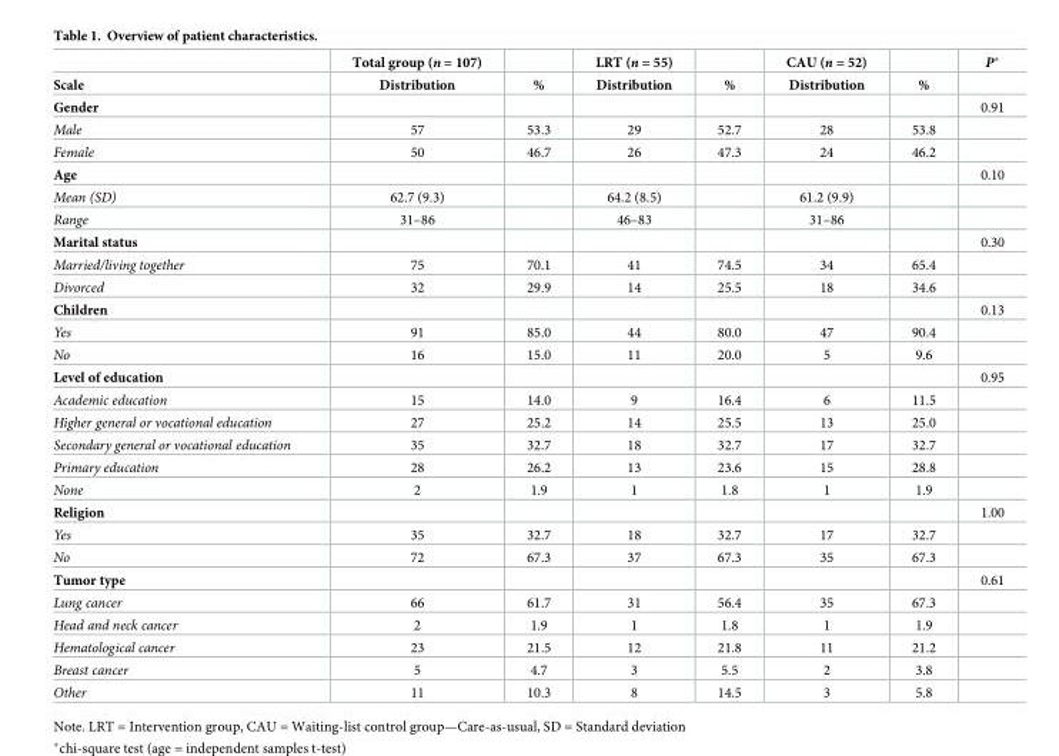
<table><thead><tr><td rowspan="2">Scale</td><td rowspan="2">Total group (n = 107) Distribution</td><td rowspan="2">%</td><td rowspan="2">LRT (n = 55) Distribution</td><td rowspan="2">%</td><td rowspan="2">CAU (n = 52) Distribution</td><td rowspan="2">%</td><td rowspan="2">P*</td></tr><tr></tr></thead><tbody><tr><td>Gender</td><td></td><td></td><td></td><td></td><td></td><td></td><td>0.91</td></tr><tr><td>Male</td><td>57</td><td>53.3</td><td>29</td><td>52.7</td><td>28</td><td>53.8</td><td></td></tr><tr><td>Female</td><td>50</td><td>46.7</td><td>26</td><td>47.3</td><td>24</td><td>46.2</td><td></td></tr><tr><td>Age</td><td></td><td></td><td></td><td></td><td></td><td></td><td>0.10</td></tr><tr><td>Mean (SD)</td><td>62.7 (9.3)</td><td></td><td>64.2 (8.5)</td><td></td><td>61.2 (9.9)</td><td></td><td></td></tr><tr><td>Range</td><td>31–86</td><td></td><td>46–83</td><td></td><td>31–86</td><td></td><td></td></tr><tr><td>Marital status</td><td></td><td></td><td></td><td></td><td></td><td></td><td>0.30</td></tr><tr><td>Married/living together</td><td>75</td><td>70.1</td><td>41</td><td>74.5</td><td>34</td><td>65.4</td><td></td></tr><tr><td>Divorced</td><td>32</td><td>29.9</td><td>14</td><td>25.5</td><td>18</td><td>34.6</td><td></td></tr><tr><td>Children</td><td></td><td></td><td></td><td></td><td></td><td></td><td>0.13</td></tr><tr><td>Yes</td><td>91</td><td>85.0</td><td>44</td><td>80.0</td><td>47</td><td>90.4</td><td></td></tr><tr><td>No</td><td>16</td><td>15.0</td><td>11</td><td>20.0</td><td>5</td><td>9.6</td><td></td></tr><tr><td>Level of education</td><td></td><td></td><td></td><td></td><td></td><td></td><td>0.95</td></tr><tr><td>Academic education</td><td>15</td><td>14.0</td><td>9</td><td>16.4</td><td>6</td><td>11.5</td><td></td></tr><tr><td>Higher general or vocational education</td><td>27</td><td>25.2</td><td>14</td><td>25.5</td><td>13</td><td>25.0</td><td></td></tr><tr><td>Secondary general or vocational education</td><td>35</td><td>32.7</td><td>18</td><td>32.7</td><td>17</td><td>32.7</td><td></td></tr><tr><td>Primary education</td><td>28</td><td>26.2</td><td>13</td><td>23.6</td><td>15</td><td>28.8</td><td></td></tr><tr><td>None</td><td>2</td><td>1.9</td><td>1</td><td>1.8</td><td>1</td><td>1.9</td><td></td></tr><tr><td>Religion</td><td></td><td></td><td></td><td></td><td></td><td></td><td>1.00</td></tr><tr><td>Yes</td><td>35</td><td>32.7</td><td>18</td><td>32.7</td><td>17</td><td>32.7</td><td></td></tr><tr><td>No</td><td>72</td><td>67.3</td><td>37</td><td>67.3</td><td>35</td><td>67.3</td><td></td></tr><tr><td>Tumor type</td><td></td><td></td><td></td><td></td><td></td><td></td><td>0.61</td></tr><tr><td>Lung cancer</td><td>66</td><td>61.7</td><td>31</td><td>56.4</td><td>35</td><td>67.3</td><td></td></tr><tr><td>Head and neck cancer</td><td>2</td><td>1.9</td><td>1</td><td>1.8</td><td>1</td><td>1.9</td><td></td></tr><tr><td>Hematological cancer</td><td>23</td><td>21.5</td><td>12</td><td>21.8</td><td>11</td><td>21.2</td><td></td></tr><tr><td>Breast cancer</td><td>5</td><td>4.7</td><td>3</td><td>5.5</td><td>2</td><td>3.8</td><td></td></tr><tr><td>Other</td><td>11</td><td>10.3</td><td>8</td><td>14.5</td><td>3</td><td>5.8</td><td></td></tr></tbody></table>